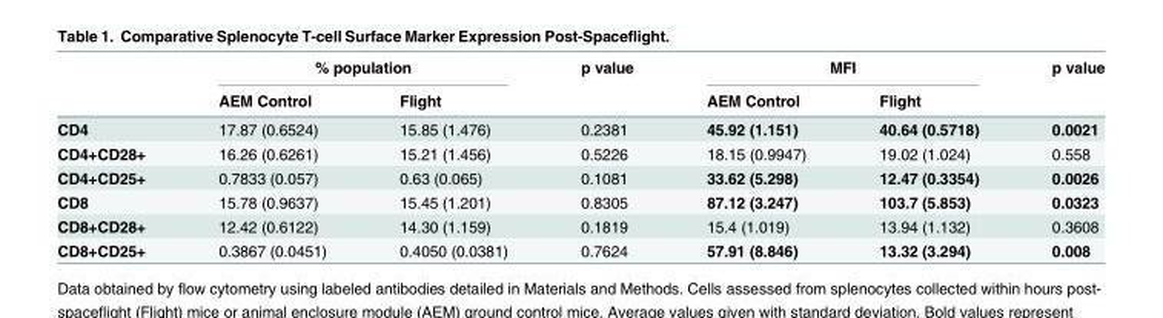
<table><thead><tr><td rowspan="2"></td><td colspan="2">% population</td><td rowspan="2">p value</td><td colspan="2">MFI</td><td rowspan="2">p value</td></tr><tr><td>AEM Control</td><td>Flight</td><td>AEM Control</td><td>Flight</td></tr></thead><tbody><tr><td>CD4</td><td>17.87 (0.6524)</td><td>15.85 (1.476)</td><td>0.2381</td><td>45.92 (1.151)</td><td>40.64 (0.5718)</td><td>0.0021</td></tr><tr><td>CD4+CD28+</td><td>16.26 (0.6261)</td><td>15.21 (1.456)</td><td>0.5226</td><td>18.15 (0.9947)</td><td>19.02 (1.024)</td><td>0.558</td></tr><tr><td>CD4+CD25+</td><td>0.7833 (0.057)</td><td>0.63 (0.065)</td><td>0.1081</td><td>33.62 (5.298)</td><td>12.47 (0.3354)</td><td>0.0026</td></tr><tr><td>CD8</td><td>15.78 (0.9637)</td><td>15.45 (1.201)</td><td>0.8305</td><td>87.12 (3.247)</td><td>103.7 (5.853)</td><td>0.0323</td></tr><tr><td>CD8+CD28+</td><td>12.42 (0.6122)</td><td>14.30 (1.159)</td><td>0.1819</td><td>15.4 (1.019)</td><td>13.94 (1.132)</td><td>0.3608</td></tr><tr><td>CD8+CD25+</td><td>0.3867 (0.0451)</td><td>0.4050 (0.0381)</td><td>0.7624</td><td>57.91 (8.846)</td><td>13.32 (3.294)</td><td>0.008</td></tr></tbody></table>